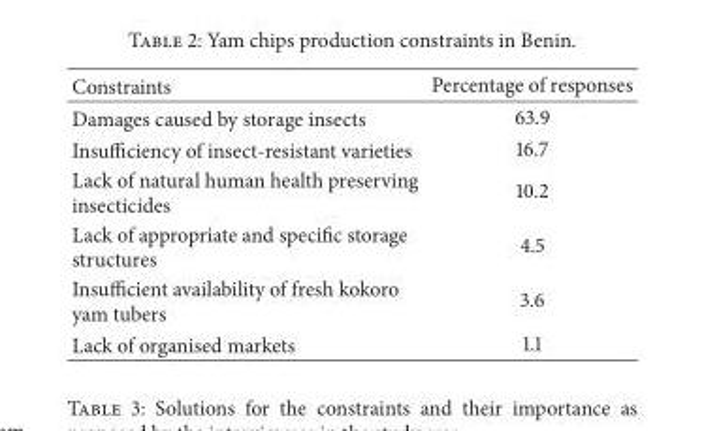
<table><thead><tr><td>Constraints</td><td>Percentage of responses</td></tr></thead><tbody><tr><td>Damages caused by storage insects</td><td>63.9</td></tr><tr><td>Insufficiency of insect-resistant varieties</td><td>16.7</td></tr><tr><td>Lack of natural human health preserving insecticides</td><td>10.2</td></tr><tr><td>Lack of appropriate and specific storage structures</td><td>4.5</td></tr><tr><td>Insufficient availability of fresh kokoro yam tubers</td><td>3.6</td></tr><tr><td>Lack of organised markets</td><td>1.1</td></tr></tbody></table>